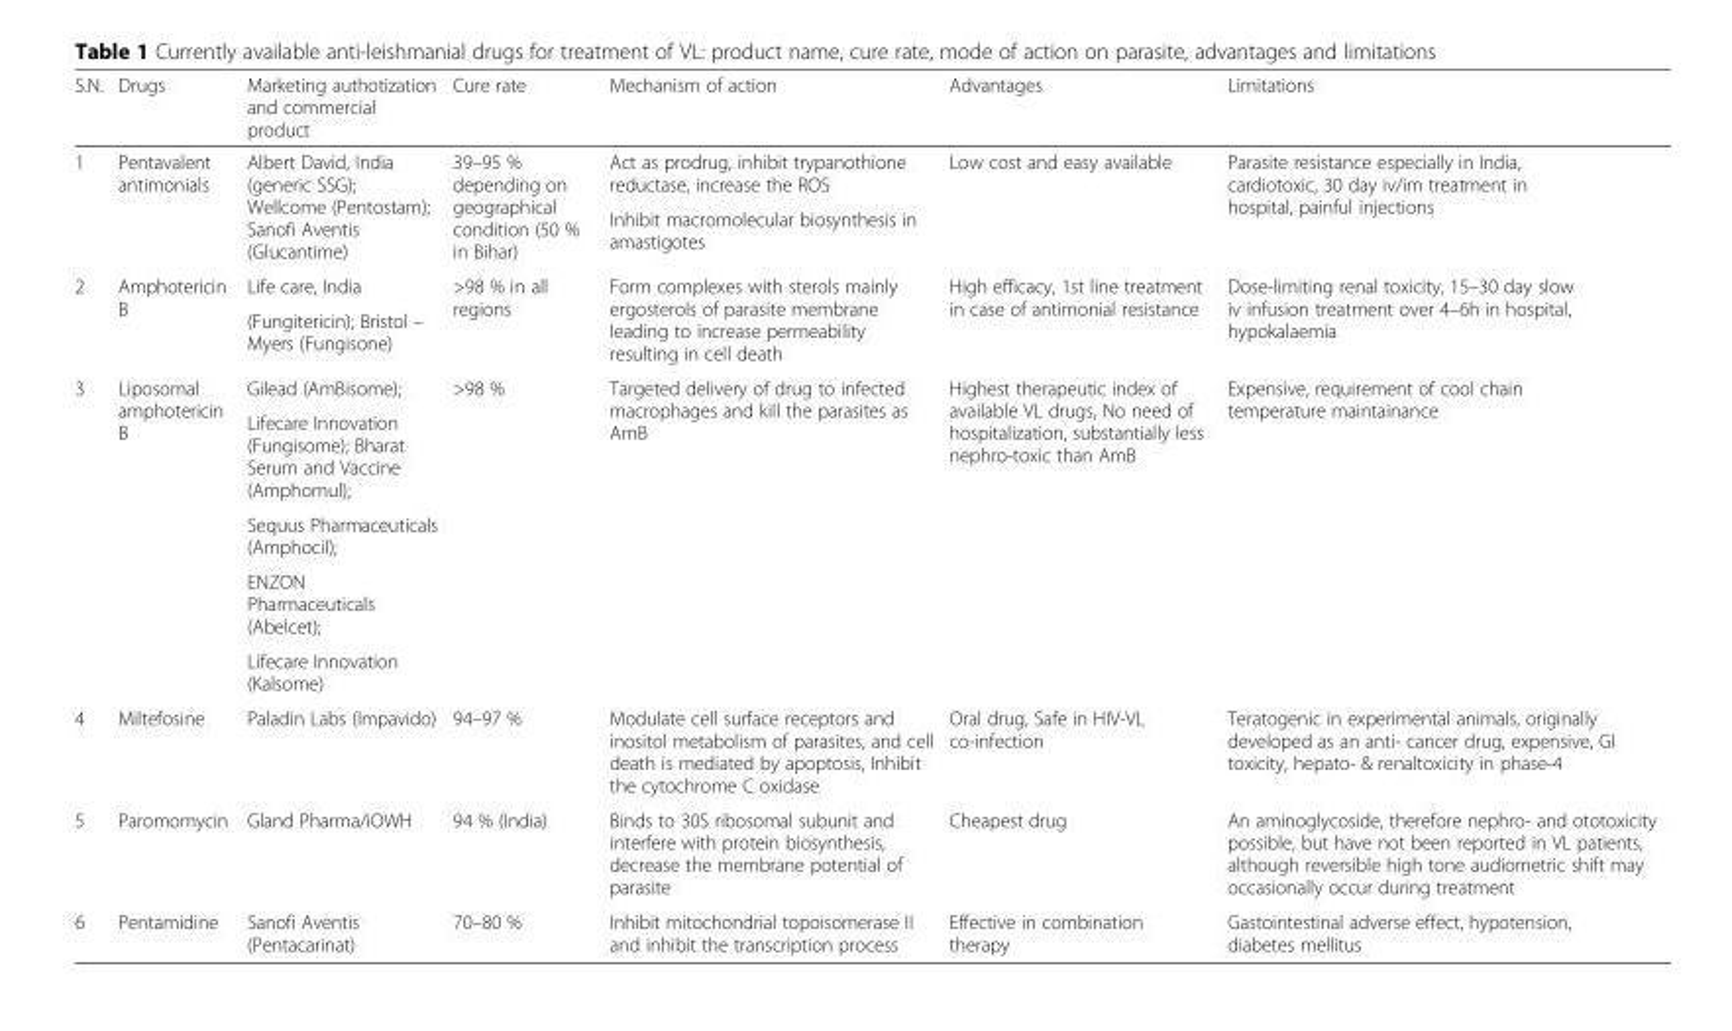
<table><thead><tr><td>S.N.</td><td>Drugs</td><td>Marketing authotization and commercial product</td><td>Cure rate</td><td>Mechanism of action</td><td>Advantages</td><td>Limitations</td></tr></thead><tbody><tr><td rowspan="2">1</td><td rowspan="2">Pentavalent antimonials</td><td rowspan="2">Albert David, India (generic SSG); Wellcome (Pentostam); Sanofi Aventis (Glucantime)</td><td rowspan="2">39–95 % depending on geographical condition (50 % in Bihar)</td><td>Act as prodrug, inhibit trypanothione reductase, increase the ROS</td><td rowspan="2">Low cost and easy available</td><td rowspan="2">Parasite resistance especially in India, cardiotoxic, 30 day iv/im treatment in hospital, painful injections</td></tr><tr><td>Inhibit macromolecular biosynthesis in amastigotes</td></tr><tr><td rowspan="2">2</td><td rowspan="2">Amphotericin B</td><td>Life care, India</td><td rowspan="2">&gt;98 % in all regions</td><td rowspan="2">Form complexes with sterols mainly ergosterols of parasite membrane leading to increase permeability resulting in cell death</td><td rowspan="2">High efficacy, 1st line treatment in case of antimonial resistance</td><td rowspan="2">Dose-limiting renal toxicity, 15–30 day slow iv infusion treatment over 4–6h in hospital, hypokalaemia</td></tr><tr><td>(Fungitericin); Bristol – Myers (Fungisone)</td></tr><tr><td rowspan="5">3</td><td rowspan="5">Liposomal amphotericin B</td><td>Gilead (AmBisome);</td><td rowspan="5">&gt;98 %</td><td rowspan="5">Targeted delivery of drug to infected macrophages and kill the parasites as AmB</td><td rowspan="5">Highest therapeutic index of available VL drugs, No need of hospitalization, substantially less nephro-toxic than AmB</td><td rowspan="5">Expensive, requirement of cool chain temperature maintainance</td></tr><tr><td>Lifecare Innovation (Fungisome); Bharat Serum and Vaccine (Amphomul);</td></tr><tr><td>Sequus Pharmaceuticals (Amphocil);</td></tr><tr><td>ENZON Pharmaceuticals (Abelcet);</td></tr><tr><td>Lifecare Innovation (Kalsome)</td></tr><tr><td>4</td><td>Miltefosine</td><td>Paladin Labs (Impavido)</td><td>94–97 %</td><td>Modulate cell surface receptors and inositol metabolism of parasites, and cell death is mediated by apoptosis, Inhibit the cytochrome C oxidase</td><td>Oral drug, Safe in HIV-VL co-infection</td><td>Teratogenic in experimental animals, originally developed as an anti- cancer drug, expensive, GI toxicity, hepato- &amp; renaltoxicity in phase-4</td></tr><tr><td>5</td><td>Paromomycin</td><td>Gland Pharma/iOWH</td><td>94 % (India)</td><td>Binds to 30S ribosomal subunit and interfere with protein biosynthesis, decrease the membrane potential of parasite</td><td>Cheapest drug</td><td>An aminoglycoside, therefore nephro- and ototoxicity possible, but have not been reported in VL patients, although reversible high tone audiometric shift may occasionally occur during treatment</td></tr><tr><td>6</td><td>Pentamidine</td><td>Sanofi Aventis (Pentacarinat)</td><td>70–80 %</td><td>Inhibit mitochondrial topoisomerase II and inhibit the transcription process</td><td>Effective in combination therapy</td><td>Gastointestinal adverse effect, hypotension, diabetes mellitus</td></tr></tbody></table>